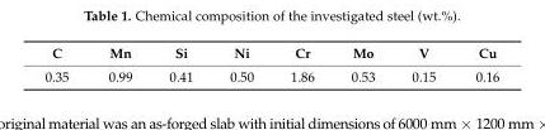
<table><thead><tr><td>C</td><td>Mn</td><td>Si</td><td>Ni</td><td>Cr</td><td>Mo</td><td>V</td><td>Cu</td></tr></thead><tbody><tr><td>0.35</td><td>0.99</td><td>0.41</td><td>0.50</td><td>1.86</td><td>0.53</td><td>0.15</td><td>0.16</td></tr></tbody></table>